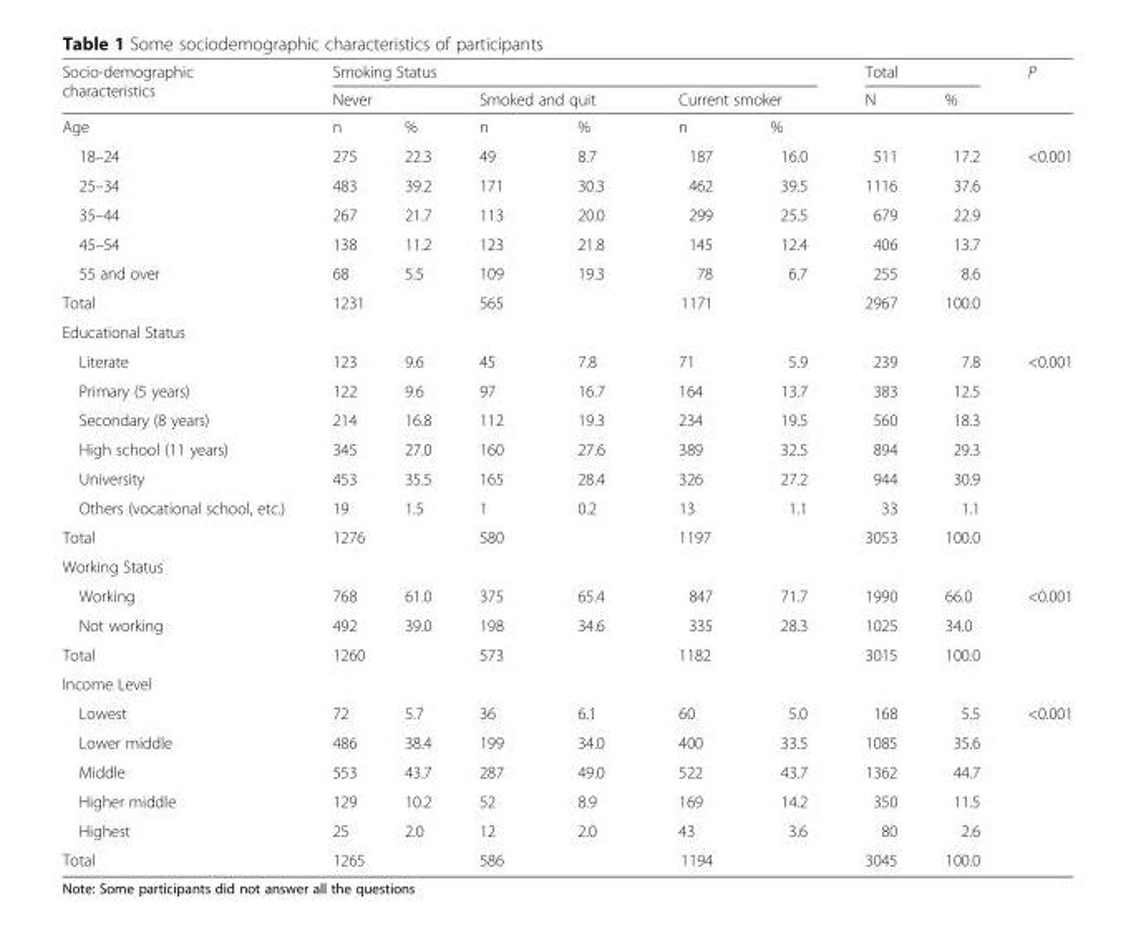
<table><thead><tr><td rowspan="3">Socio-demographic characteristics Age</td><td colspan="6">Smoking Status</td><td colspan="2">Total</td><td rowspan="3">P</td></tr><tr><td colspan="2">Never</td><td colspan="2">Smoked and quit</td><td colspan="2">Current smoker</td><td rowspan="2">N</td><td rowspan="2">%</td></tr><tr><td>n</td><td>%</td><td>n</td><td>%</td><td>n</td><td>%</td></tr></thead><tbody><tr><td>18–24</td><td>275</td><td>22.3</td><td>49</td><td>8.7</td><td>187</td><td>16.0</td><td>511</td><td>17.2</td><td rowspan="6">&lt;0.001</td></tr><tr><td>25–34</td><td>483</td><td>39.2</td><td>171</td><td>30.3</td><td>462</td><td>39.5</td><td>1116</td><td>37.6</td></tr><tr><td>35–44</td><td>267</td><td>21.7</td><td>113</td><td>20.0</td><td>299</td><td>25.5</td><td>679</td><td>22.9</td></tr><tr><td>45–54</td><td>138</td><td>11.2</td><td>123</td><td>21.8</td><td>145</td><td>12.4</td><td>406</td><td>13.7</td></tr><tr><td>55 and over</td><td>68</td><td>5.5</td><td>109</td><td>19.3</td><td>78</td><td>6.7</td><td>255</td><td>8.6</td></tr><tr><td>Total</td><td colspan="2">1231</td><td colspan="2">565</td><td colspan="2">1171</td><td>2967</td><td>100.0</td></tr><tr><td colspan="10">Educational Status</td></tr><tr><td>Literate</td><td>123</td><td>9.6</td><td>45</td><td>7.8</td><td>71</td><td>5.9</td><td>239</td><td>7.8</td><td rowspan="7">&lt;0.001</td></tr><tr><td>Primary (5 years)</td><td>122</td><td>9.6</td><td>97</td><td>16.7</td><td>164</td><td>13.7</td><td>383</td><td>12.5</td></tr><tr><td>Secondary (8 years)</td><td>214</td><td>16.8</td><td>112</td><td>19.3</td><td>234</td><td>19.5</td><td>560</td><td>18.3</td></tr><tr><td>High school (11 years)</td><td>345</td><td>27.0</td><td>160</td><td>27.6</td><td>389</td><td>32.5</td><td>894</td><td>29.3</td></tr><tr><td>University</td><td>453</td><td>35.5</td><td>165</td><td>28.4</td><td>326</td><td>27.2</td><td>944</td><td>30.9</td></tr><tr><td>Others (vocational school, etc.)</td><td>19</td><td>1.5</td><td>1</td><td>0.2</td><td>13</td><td>1.1</td><td>33</td><td>1.1</td></tr><tr><td>Total</td><td colspan="2">1276</td><td colspan="2">580</td><td colspan="2">1197</td><td>3053</td><td>100.0</td></tr><tr><td colspan="10">Working Status</td></tr><tr><td>Working</td><td>768</td><td>61.0</td><td>375</td><td>65.4</td><td>847</td><td>71.7</td><td>1990</td><td>66.0</td><td rowspan="3">&lt;0.001</td></tr><tr><td>Not working</td><td>492</td><td>39.0</td><td>198</td><td>34.6</td><td>335</td><td>28.3</td><td>1025</td><td>34.0</td></tr><tr><td>Total</td><td colspan="2">1260</td><td colspan="2">573</td><td colspan="2">1182</td><td>3015</td><td>100.0</td></tr><tr><td colspan="10">Income Level</td></tr><tr><td>Lowest</td><td>72</td><td>5.7</td><td>36</td><td>6.1</td><td>60</td><td>5.0</td><td>168</td><td>5.5</td><td rowspan="6">&lt;0.001</td></tr><tr><td>Lower middle</td><td>486</td><td>38.4</td><td>199</td><td>34.0</td><td>400</td><td>33.5</td><td>1085</td><td>35.6</td></tr><tr><td>Middle</td><td>553</td><td>43.7</td><td>287</td><td>49.0</td><td>522</td><td>43.7</td><td>1362</td><td>44.7</td></tr><tr><td>Higher middle</td><td>129</td><td>10.2</td><td>52</td><td>8.9</td><td>169</td><td>14.2</td><td>350</td><td>11.5</td></tr><tr><td>Highest</td><td>25</td><td>2.0</td><td>12</td><td>2.0</td><td>43</td><td>3.6</td><td>80</td><td>2.6</td></tr><tr><td>Total</td><td colspan="2">1265</td><td colspan="2">586</td><td colspan="2">1194</td><td>3045</td><td>100.0</td></tr></tbody></table>